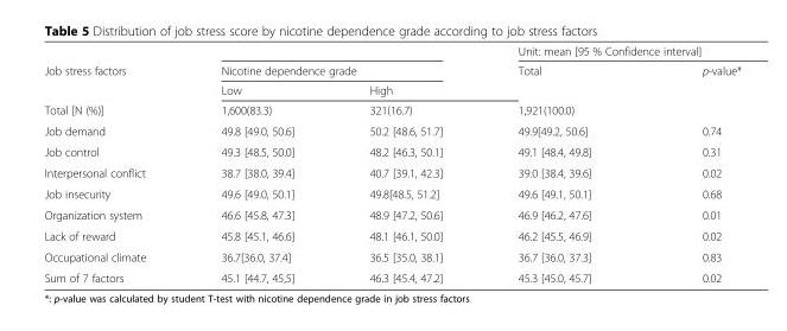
<table><thead><tr><td rowspan="3">Job stress factors</td><td></td><td></td><td colspan="2">Unit: mean [95 % Confidence interval]</td></tr><tr><td colspan="2">Nicotine dependence grade</td><td rowspan="2">Total</td><td rowspan="2">p-value*</td></tr><tr><td>Low</td><td>High</td></tr></thead><tbody><tr><td>Total [N (%)]</td><td>1,600(83.3)</td><td>321(16.7)</td><td>1,921(100.0)</td><td></td></tr><tr><td>Job demand</td><td>49.8 [49.0, 50.6]</td><td>50.2 [48.6, 51.7]</td><td>49.9[49.2, 50.6]</td><td>0.74</td></tr><tr><td>Job control</td><td>49.3 [48.5, 50.0]</td><td>48.2 [46.3, 50.1]</td><td>49.1 [48.4, 49.8]</td><td>0.31</td></tr><tr><td>Interpersonal conflict</td><td>38.7 [38.0, 39.4]</td><td>40.7 [39.1, 42.3]</td><td>39.0 [38.4, 39.6]</td><td>0.02</td></tr><tr><td>Job insecurity</td><td>49.6 [49.0, 50.1]</td><td>49.8[48.5, 51.2]</td><td>49.6 [49.1, 50.1]</td><td>0.68</td></tr><tr><td>Organization system</td><td>46.6 [45.8, 47.3]</td><td>48.9 [47.2, 50.6]</td><td>46.9 [46.2, 47.6]</td><td>0.01</td></tr><tr><td>Lack of reward</td><td>45.8 [45.1, 46.6]</td><td>48.1 [46.1, 50.0]</td><td>46.2 [45.5, 46.9]</td><td>0.02</td></tr><tr><td>Occupational climate</td><td>36.7[36.0, 37.4]</td><td>36.5 [35.0, 38.1]</td><td>36.7 [36.0, 37.3]</td><td>0.83</td></tr><tr><td>Sum of 7 factors</td><td>45.1 [44.7, 45,5]</td><td>46.3 [45.4, 47.2]</td><td>45.3 [45.0, 45.7]</td><td>0.02</td></tr></tbody></table>